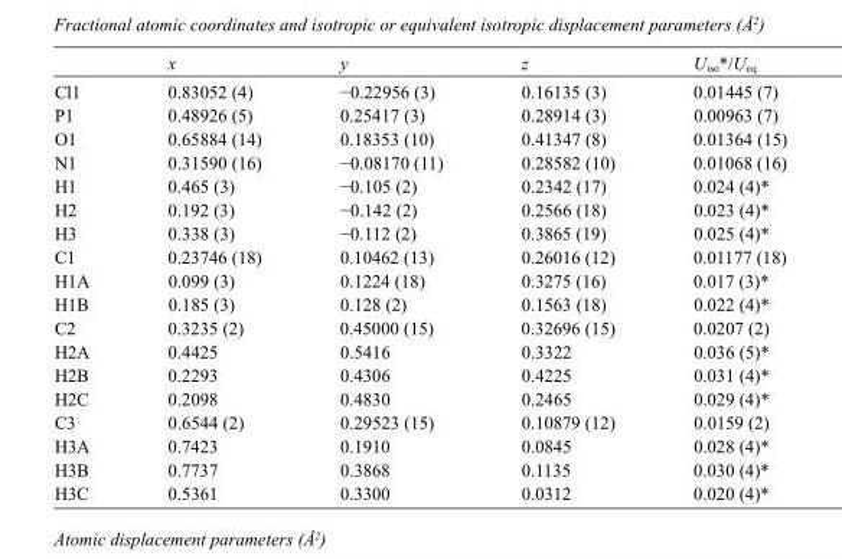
<table><thead><tr><td></td><td>x</td><td>y</td><td>z</td><td>U<sub>iso</sub>*/U<sub>eq</sub></td></tr></thead><tbody><tr><td>Cl1</td><td>0.83052 (4)</td><td>−0.22956 (3)</td><td>0.16135 (3)</td><td>0.01445 (7)</td></tr><tr><td>P1</td><td>0.48926 (5)</td><td>0.25417 (3)</td><td>0.28914 (3)</td><td>0.00963 (7)</td></tr><tr><td>O1</td><td>0.65884 (14)</td><td>0.18353 (10)</td><td>0.41347 (8)</td><td>0.01364 (15)</td></tr><tr><td>N1</td><td>0.31590 (16)</td><td>−0.08170 (11)</td><td>0.28582 (10)</td><td>0.01068 (16)</td></tr><tr><td>H1</td><td>0.465 (3)</td><td>−0.105 (2)</td><td>0.2342 (17)</td><td>0.024 (4)*</td></tr><tr><td>H2</td><td>0.192 (3)</td><td>−0.142 (2)</td><td>0.2566 (18)</td><td>0.023 (4)*</td></tr><tr><td>H3</td><td>0.338 (3)</td><td>−0.112 (2)</td><td>0.3865 (19)</td><td>0.025 (4)*</td></tr><tr><td>C1</td><td>0.23746 (18)</td><td>0.10462 (13)</td><td>0.26016 (12)</td><td>0.01177 (18)</td></tr><tr><td>H1A</td><td>0.099 (3)</td><td>0.1224 (18)</td><td>0.3275 (16)</td><td>0.017 (3)*</td></tr><tr><td>H1B</td><td>0.185 (3)</td><td>0.128 (2)</td><td>0.1563 (18)</td><td>0.022 (4)*</td></tr><tr><td>C2</td><td>0.3235 (2)</td><td>0.45000 (15)</td><td>0.32696 (15)</td><td>0.0207 (2)</td></tr><tr><td>H2A</td><td>0.4425</td><td>0.5416</td><td>0.3322</td><td>0.036 (5)*</td></tr><tr><td>H2B</td><td>0.2293</td><td>0.4306</td><td>0.4225</td><td>0.031 (4)*</td></tr><tr><td>H2C</td><td>0.2098</td><td>0.4830</td><td>0.2465</td><td>0.029 (4)*</td></tr><tr><td>C3</td><td>0.6544 (2)</td><td>0.29523 (15)</td><td>0.10879 (12)</td><td>0.0159 (2)</td></tr><tr><td>H3A</td><td>0.7423</td><td>0.1910</td><td>0.0845</td><td>0.028 (4)*</td></tr><tr><td>H3B</td><td>0.7737</td><td>0.3868</td><td>0.1135</td><td>0.030 (4)*</td></tr><tr><td>H3C</td><td>0.5361</td><td>0.3300</td><td>0.0312</td><td>0.020 (4)*</td></tr></tbody></table>